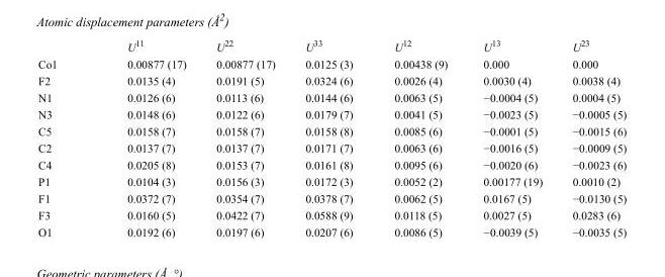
<table><thead><tr><td></td><td>U<sup>11</sup></td><td>U<sup>22</sup></td><td>U<sup>33</sup></td><td>U<sup>12</sup></td><td>U<sup>13</sup></td><td>U<sup>23</sup></td></tr></thead><tbody><tr><td>Co1</td><td>0.00877 (17)</td><td>0.00877 (17)</td><td>0.0125 (3)</td><td>0.00438 (9)</td><td>0.000</td><td>0.000</td></tr><tr><td>F2</td><td>0.0135 (4)</td><td>0.0191 (5)</td><td>0.0324 (6)</td><td>0.0026 (4)</td><td>0.0030 (4)</td><td>0.0038 (4)</td></tr><tr><td>N1</td><td>0.0126 (6)</td><td>0.0113 (6)</td><td>0.0144 (6)</td><td>0.0063 (5)</td><td>−0.0004 (5)</td><td>0.0004 (5)</td></tr><tr><td>N3</td><td>0.0148 (6)</td><td>0.0122 (6)</td><td>0.0179 (7)</td><td>0.0041 (5)</td><td>−0.0023 (5)</td><td>−0.0005 (5)</td></tr><tr><td>C5</td><td>0.0158 (7)</td><td>0.0158 (7)</td><td>0.0158 (8)</td><td>0.0085 (6)</td><td>−0.0001 (5)</td><td>−0.0015 (6)</td></tr><tr><td>C2</td><td>0.0137 (7)</td><td>0.0137 (7)</td><td>0.0171 (7)</td><td>0.0063 (6)</td><td>−0.0016 (5)</td><td>−0.0009 (5)</td></tr><tr><td>C4</td><td>0.0205 (8)</td><td>0.0153 (7)</td><td>0.0161 (8)</td><td>0.0095 (6)</td><td>−0.0020 (6)</td><td>−0.0023 (6)</td></tr><tr><td>P1</td><td>0.0104 (3)</td><td>0.0156 (3)</td><td>0.0172 (3)</td><td>0.0052 (2)</td><td>0.00177 (19)</td><td>0.0010 (2)</td></tr><tr><td>F1</td><td>0.0372 (7)</td><td>0.0354 (7)</td><td>0.0378 (7)</td><td>0.0062 (5)</td><td>0.0167 (5)</td><td>−0.0130 (5)</td></tr><tr><td>F3</td><td>0.0160 (5)</td><td>0.0422 (7)</td><td>0.0588 (9)</td><td>0.0118 (5)</td><td>0.0027 (5)</td><td>0.0283 (6)</td></tr><tr><td>O1</td><td>0.0192 (6)</td><td>0.0197 (6)</td><td>0.0207 (6)</td><td>0.0086 (5)</td><td>−0.0039 (5)</td><td>−0.0035 (5)</td></tr></tbody></table>